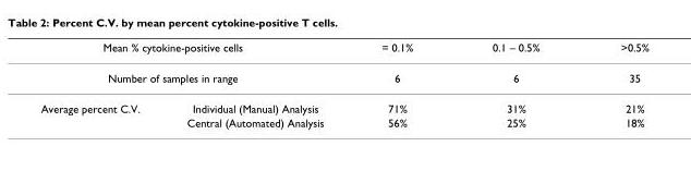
<table><thead><tr><td rowspan="2" colspan="2">Mean % cytokine-positive cells Number of samples in range</td><td rowspan="3">= 0.1% 6 71%</td><td rowspan="3">0.1 – 0.5% 6 31%</td><td rowspan="3">&gt;0.5% 35 21%</td></tr><tr></tr><tr><td>Average percent C.V.</td><td>Individual (Manual) Analysis</td></tr></thead><tbody><tr><td></td><td>Central (Automated) Analysis</td><td>56%</td><td>25%</td><td>18%</td></tr></tbody></table>